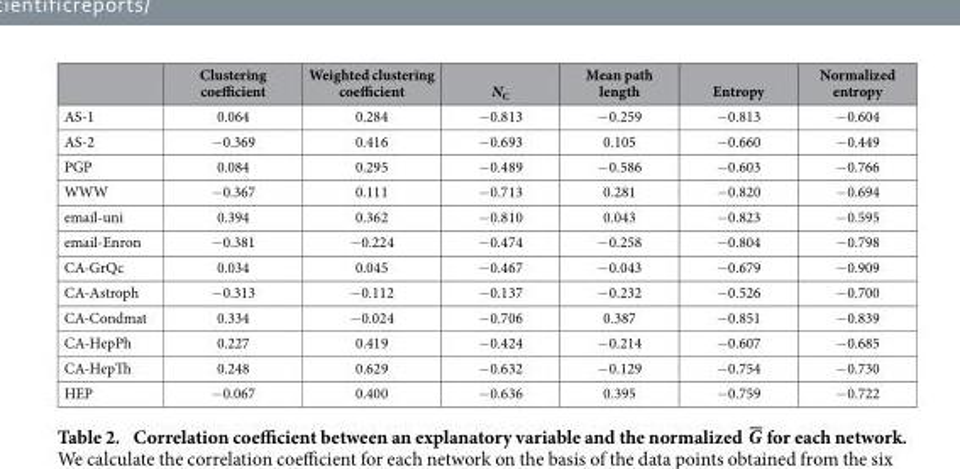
<table><thead><tr><td></td><td>Clustering coefficient</td><td>Weighted clustering coefficient</td><td>N<sub>C</sub></td><td>Mean path length</td><td>Entropy</td><td>Normalized entropy</td></tr></thead><tbody><tr><td>AS-1</td><td>0.064</td><td>0.284</td><td>− 0.813</td><td>− 0.259</td><td>− 0.813</td><td>− 0.604</td></tr><tr><td>AS-2</td><td>− 0.369</td><td>0.416</td><td>− 0.693</td><td>0.105</td><td>− 0.660</td><td>− 0.449</td></tr><tr><td>PGP</td><td>0.084</td><td>0.295</td><td>− 0.489</td><td>− 0.586</td><td>− 0.603</td><td>− 0.766</td></tr><tr><td>WWW</td><td>− 0.367</td><td>0.111</td><td>− 0.713</td><td>0.281</td><td>− 0.820</td><td>− 0.694</td></tr><tr><td>email-uni</td><td>0.394</td><td>0.362</td><td>− 0.810</td><td>0.043</td><td>− 0.823</td><td>− 0.595</td></tr><tr><td>email-Enron</td><td>− 0.381</td><td>− 0.224</td><td>− 0.474</td><td>− 0.258</td><td>− 0.804</td><td>− 0.798</td></tr><tr><td>CA-GrQc</td><td>0.034</td><td>0.045</td><td>− 0.467</td><td>− 0.043</td><td>− 0.679</td><td>− 0.909</td></tr><tr><td>CA-Astroph</td><td>− 0.313</td><td>− 0.112</td><td>− 0.137</td><td>− 0.232</td><td>− 0.526</td><td>− 0.700</td></tr><tr><td>CA-Condmat</td><td>0.334</td><td>− 0.024</td><td>− 0.706</td><td>0.387</td><td>− 0.851</td><td>− 0.839</td></tr><tr><td>CA-HepPh</td><td>0.227</td><td>0.419</td><td>− 0.424</td><td>− 0.214</td><td>− 0.607</td><td>− 0.685</td></tr><tr><td>CA-HepTh</td><td>0.248</td><td>0.629</td><td>− 0.632</td><td>− 0.129</td><td>− 0.754</td><td>− 0.730</td></tr><tr><td>HEP</td><td>− 0.067</td><td>0.400</td><td>− 0.636</td><td>0.395</td><td>− 0.759</td><td>− 0.722</td></tr></tbody></table>